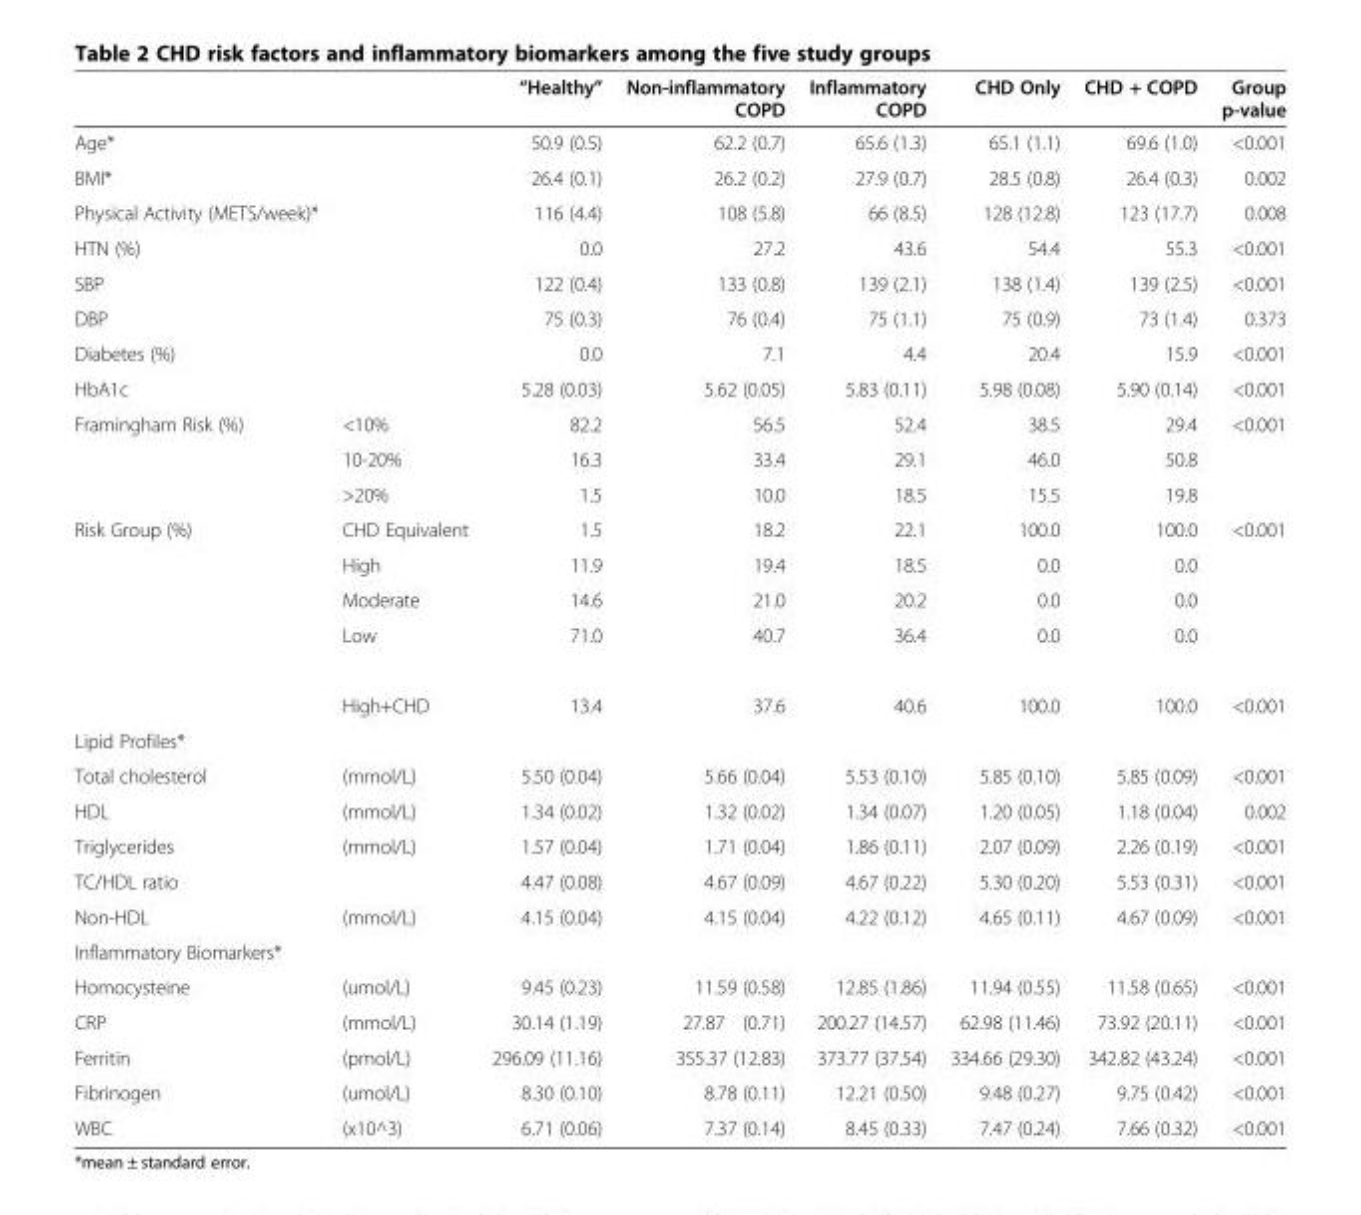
<table><thead><tr><td></td><td></td><td>“Healthy”</td><td>Non-inflammatory COPD</td><td>Inflammatory COPD</td><td>CHD Only</td><td>CHD + COPD</td><td>Group p-value</td></tr></thead><tbody><tr><td>Age*</td><td></td><td>50.9 (0.5)</td><td>62.2 (0.7)</td><td>65.6 (1.3)</td><td>65.1 (1.1)</td><td>69.6 (1.0)</td><td>&lt;0.001</td></tr><tr><td>BMI*</td><td></td><td>26.4 (0.1)</td><td>26.2 (0.2)</td><td>27.9 (0.7)</td><td>28.5 (0.8)</td><td>26.4 (0.3)</td><td>0.002</td></tr><tr><td>Physical Activity (METS/week)*</td><td></td><td>116 (4.4)</td><td>108 (5.8)</td><td>66 (8.5)</td><td>128 (12.8)</td><td>123 (17.7)</td><td>0.008</td></tr><tr><td>HTN (%)</td><td></td><td>0.0</td><td>27.2</td><td>43.6</td><td>54.4</td><td>55.3</td><td>&lt;0.001</td></tr><tr><td>SBP</td><td></td><td>122 (0.4)</td><td>133 (0.8)</td><td>139 (2.1)</td><td>138 (1.4)</td><td>139 (2.5)</td><td>&lt;0.001</td></tr><tr><td>DBP</td><td></td><td>75 (0.3)</td><td>76 (0.4)</td><td>75 (1.1)</td><td>75 (0.9)</td><td>73 (1.4)</td><td>0.373</td></tr><tr><td>Diabetes (%)</td><td></td><td>0.0</td><td>7.1</td><td>4.4</td><td>20.4</td><td>15.9</td><td>&lt;0.001</td></tr><tr><td>HbA1c</td><td></td><td>5.28 (0.03)</td><td>5.62 (0.05)</td><td>5.83 (0.11)</td><td>5.98 (0.08)</td><td>5.90 (0.14)</td><td>&lt;0.001</td></tr><tr><td rowspan="3">Framingham Risk (%)</td><td>&lt;10%</td><td>82.2</td><td>56.5</td><td>52.4</td><td>38.5</td><td>29.4</td><td>&lt;0.001</td></tr><tr><td>10-20%</td><td>16.3</td><td>33.4</td><td>29.1</td><td>46.0</td><td>50.8</td><td></td></tr><tr><td>&gt;20%</td><td>1.5</td><td>10.0</td><td>18.5</td><td>15.5</td><td>19.8</td><td></td></tr><tr><td rowspan="5">Risk Group (%)</td><td>CHD Equivalent</td><td>1.5</td><td>18.2</td><td>22.1</td><td>100.0</td><td>100.0</td><td>&lt;0.001</td></tr><tr><td>High</td><td>11.9</td><td>19.4</td><td>18.5</td><td>0.0</td><td>0.0</td><td></td></tr><tr><td>Moderate</td><td>14.6</td><td>21.0</td><td>20.2</td><td>0.0</td><td>0.0</td><td></td></tr><tr><td>Low</td><td>71.0</td><td>40.7</td><td>36.4</td><td>0.0</td><td>0.0</td><td></td></tr><tr><td>High+CHD</td><td>13.4</td><td>37.6</td><td>40.6</td><td>100.0</td><td>100.0</td><td>&lt;0.001</td></tr><tr><td colspan="8">Lipid Profiles*</td></tr><tr><td>Total cholesterol</td><td>(mmol/L)</td><td>5.50 (0.04)</td><td>5.66 (0.04)</td><td>5.53 (0.10)</td><td>5.85 (0.10)</td><td>5.85 (0.09)</td><td>&lt;0.001</td></tr><tr><td>HDL</td><td>(mmol/L)</td><td>1.34 (0.02)</td><td>1.32 (0.02)</td><td>1.34 (0.07)</td><td>1.20 (0.05)</td><td>1.18 (0.04)</td><td>0.002</td></tr><tr><td>Triglycerides</td><td>(mmol/L)</td><td>1.57 (0.04)</td><td>1.71 (0.04)</td><td>1.86 (0.11)</td><td>2.07 (0.09)</td><td>2.26 (0.19)</td><td>&lt;0.001</td></tr><tr><td>TC/HDL ratio</td><td></td><td>4.47 (0.08)</td><td>4.67 (0.09)</td><td>4.67 (0.22)</td><td>5.30 (0.20)</td><td>5.53 (0.31)</td><td>&lt;0.001</td></tr><tr><td>Non-HDL</td><td>(mmol/L)</td><td>4.15 (0.04)</td><td>4.15 (0.04)</td><td>4.22 (0.12)</td><td>4.65 (0.11)</td><td>4.67 (0.09)</td><td>&lt;0.001</td></tr><tr><td colspan="8">Inflammatory Biomarkers*</td></tr><tr><td>Homocysteine</td><td>(umol/L)</td><td>9.45 (0.23)</td><td>11.59 (0.58)</td><td>12.85 (1.86)</td><td>11.94 (0.55)</td><td>11.58 (0.65)</td><td>&lt;0.001</td></tr><tr><td>CRP</td><td>(mmol/L)</td><td>30.14 (1.19)</td><td>27.87 (0.71)</td><td>200.27 (14.57)</td><td>62.98 (11.46)</td><td>73.92 (20.11)</td><td>&lt;0.001</td></tr><tr><td>Ferritin</td><td>(pmol/L)</td><td>296.09 (11.16)</td><td>355.37 (12.83)</td><td>373.77 (37.54)</td><td>334.66 (29.30)</td><td>342.82 (43.24)</td><td>&lt;0.001</td></tr><tr><td>Fibrinogen</td><td>(umol/L)</td><td>8.30 (0.10)</td><td>8.78 (0.11)</td><td>12.21 (0.50)</td><td>9.48 (0.27)</td><td>9.75 (0.42)</td><td>&lt;0.001</td></tr><tr><td>WBC</td><td>(x10^3)</td><td>6.71 (0.06)</td><td>7.37 (0.14)</td><td>8.45 (0.33)</td><td>7.47 (0.24)</td><td>7.66 (0.32)</td><td>&lt;0.001</td></tr></tbody></table>